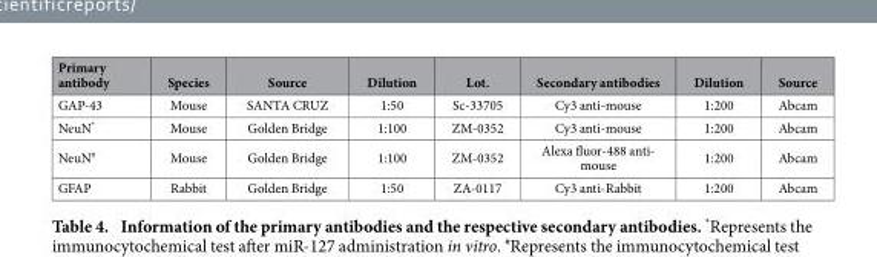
<table><thead><tr><td>Primary antibody</td><td>Species</td><td>Source</td><td>Dilution</td><td>Lot.</td><td>Secondary antibodies</td><td>Dilution</td><td>Source</td></tr></thead><tbody><tr><td>GAP-43</td><td>Mouse</td><td>SANTA CRUZ</td><td>1:50</td><td>Sc-33705</td><td>Cy3 anti-mouse</td><td>1:200</td><td>Abcam</td></tr><tr><td>NeuN*</td><td>Mouse</td><td>Golden Bridge</td><td>1:100</td><td>ZM-0352</td><td>Cy3 anti-mouse</td><td>1:200</td><td>Abcam</td></tr><tr><td>NeuN#</td><td>Mouse</td><td>Golden Bridge</td><td>1:100</td><td>ZM-0352</td><td>Alexa fluor-488 anti- mouse</td><td>1:200</td><td>Abcam</td></tr><tr><td>GFAP</td><td>Rabbit</td><td>Golden Bridge</td><td>1:50</td><td>ZA-0117</td><td>Cy3 anti-Rabbit</td><td>1:200</td><td>Abcam</td></tr></tbody></table>